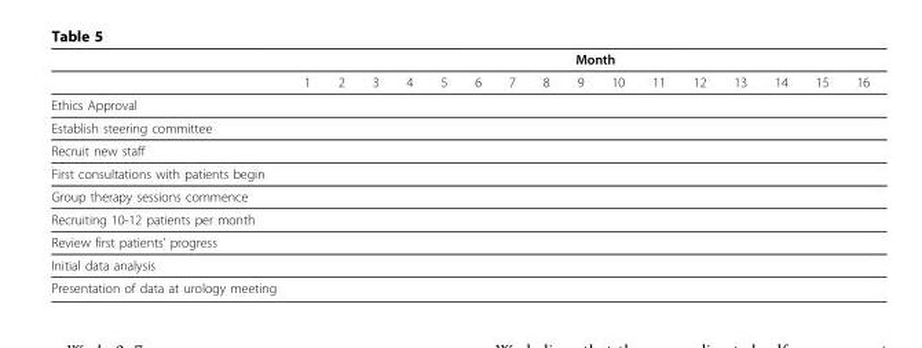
<table><thead><tr><td rowspan="2"></td><td colspan="16">Month</td></tr><tr><td>1</td><td>2</td><td>3</td><td>4</td><td>5</td><td>6</td><td>7</td><td>8</td><td>9</td><td>10</td><td>11</td><td>12</td><td>13</td><td>14</td><td>15</td><td>16</td></tr></thead><tbody><tr><td colspan="17">Ethics Approval</td></tr><tr><td colspan="17">Establish steering committee</td></tr><tr><td colspan="17">Recruit new staff</td></tr><tr><td colspan="17">First consultations with patients begin</td></tr><tr><td colspan="17">Group therapy sessions commence</td></tr><tr><td colspan="17">Recruiting 10-12 patients per month</td></tr><tr><td colspan="17">Review first patients’ progress</td></tr><tr><td colspan="17">Initial data analysis</td></tr><tr><td>Presentation of data at urology meeting</td><td></td><td></td><td></td><td></td><td></td><td></td><td></td><td></td><td></td><td></td><td></td><td></td><td></td><td></td><td></td><td></td></tr></tbody></table>